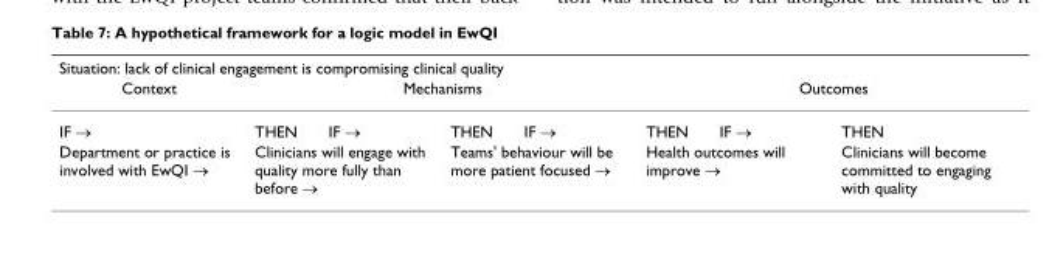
<table><thead><tr><td colspan="5">Situation: lack of clinical engagement is compromising clinical quality</td></tr><tr><td rowspan="2">Context IF →</td><td colspan="2">Mechanisms</td><td colspan="2">Outcomes</td></tr><tr><td>THEN IF →</td><td>THEN IF →</td><td>THEN IF →</td><td>THEN</td></tr></thead><tbody><tr><td>Department or practice is involved with EwQI →</td><td>Clinicians will engage with quality more fully than before →</td><td>Teams&#x27; behaviour will be more patient focused →</td><td>Health outcomes will improve →</td><td>Clinicians will become committed to engaging with quality</td></tr></tbody></table>